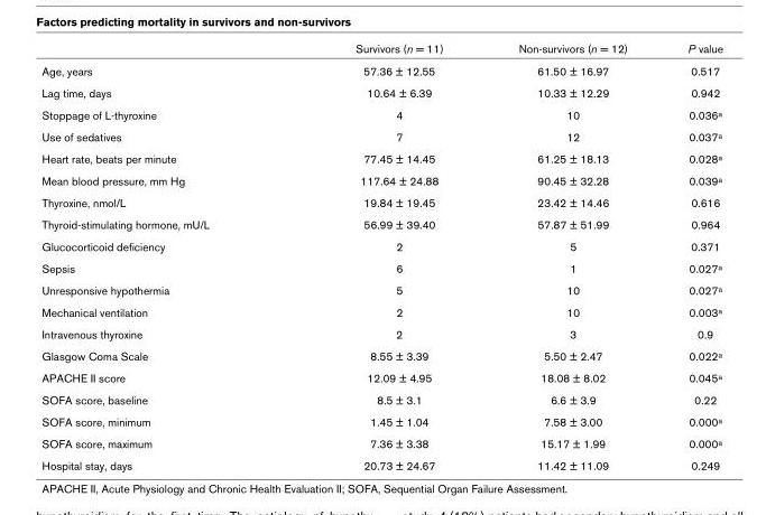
<table><thead><tr><td></td><td>Survivors (n = 11)</td><td>Non-survivors (n = 12)</td><td>P value</td></tr></thead><tbody><tr><td>Age, years</td><td>57.36 ± 12.55</td><td>61.50 ± 16.97</td><td>0.517</td></tr><tr><td>Lag time, days</td><td>10.64 ± 6.39</td><td>10.33 ± 12.29</td><td>0.942</td></tr><tr><td>Stoppage of L-thyroxine</td><td>4</td><td>10</td><td>0.036<sup>a</sup></td></tr><tr><td>Use of sedatives</td><td>7</td><td>12</td><td>0.037<sup>a</sup></td></tr><tr><td>Heart rate, beats per minute</td><td>77.45 ± 14.45</td><td>61.25 ± 18.13</td><td>0.028<sup>a</sup></td></tr><tr><td>Mean blood pressure, mm Hg</td><td>117.64 ± 24.88</td><td>90.45 ± 32.28</td><td>0.039<sup>a</sup></td></tr><tr><td>Thyroxine, nmol/L</td><td>19.84 ± 19.45</td><td>23.42 ± 14.46</td><td>0.616</td></tr><tr><td>Thyroid-stimulating hormone, mU/L</td><td>56.99 ± 39.40</td><td>57.87 ± 51.99</td><td>0.964</td></tr><tr><td>Glucocorticoid deficiency</td><td>2</td><td>5</td><td>0.371</td></tr><tr><td>Sepsis</td><td>6</td><td>1</td><td>0.027<sup>a</sup></td></tr><tr><td>Unresponsive hypothermia</td><td>5</td><td>10</td><td>0.027<sup>a</sup></td></tr><tr><td>Mechanical ventilation</td><td>2</td><td>10</td><td>0.003<sup>a</sup></td></tr><tr><td>Intravenous thyroxine</td><td>2</td><td>3</td><td>0.9</td></tr><tr><td>Glasgow Coma Scale</td><td>8.55 ± 3.39</td><td>5.50 ± 2.47</td><td>0.022<sup>a</sup></td></tr><tr><td>APACHE II score</td><td>12.09 ± 4.95</td><td>18.08 ± 8.02</td><td>0.045<sup>a</sup></td></tr><tr><td>SOFA score, baseline</td><td>8.5 ± 3.1</td><td>6.6 ± 3.9</td><td>0.22</td></tr><tr><td>SOFA score, minimum</td><td>1.45 ± 1.04</td><td>7.58 ± 3.00</td><td>0.000<sup>a</sup></td></tr><tr><td>SOFA score, maximum</td><td>7.36 ± 3.38</td><td>15.17 ± 1.99</td><td>0.000<sup>a</sup></td></tr><tr><td>Hospital stay, days</td><td>20.73 ± 24.67</td><td>11.42 ± 11.09</td><td>0.249</td></tr></tbody></table>